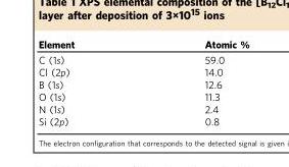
<table><thead><tr><td>Element</td><td>Atomic %</td></tr></thead><tbody><tr><td>C (1s)</td><td>59.0</td></tr><tr><td>Cl (2p)</td><td>14.0</td></tr><tr><td>B (1s)</td><td>12.6</td></tr><tr><td>O (1s)</td><td>11.3</td></tr><tr><td>N (1s)</td><td>2.4</td></tr><tr><td>Si (2p)</td><td>0.8</td></tr></tbody></table>